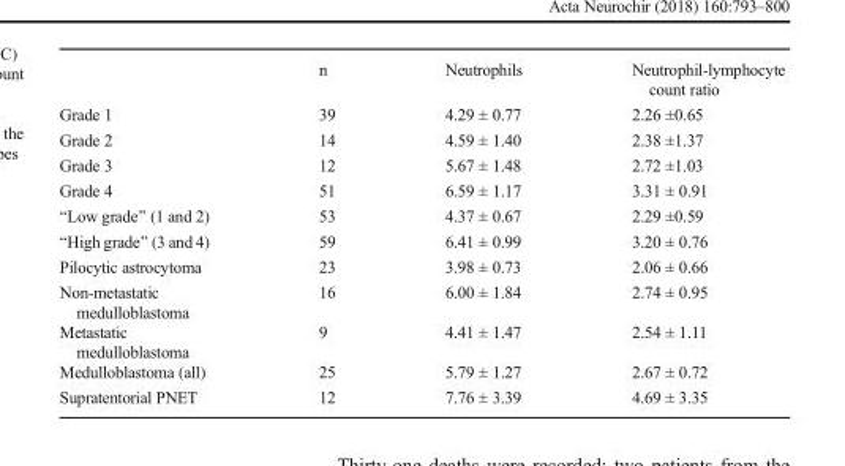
<table><thead><tr><td></td><td>n</td><td>Neutrophils</td><td>Neutrophil-lymphocyte count ratio</td></tr></thead><tbody><tr><td>Grade 1</td><td>39</td><td>4.29 ± 0.77</td><td>2.26 ±0.65</td></tr><tr><td>Grade 2</td><td>14</td><td>4.59 ± 1.40</td><td>2.38 ±1.37</td></tr><tr><td>Grade 3</td><td>12</td><td>5.67 ± 1.48</td><td>2.72 ±1.03</td></tr><tr><td>Grade 4</td><td>51</td><td>6.59 ± 1.17</td><td>3.31 ± 0.91</td></tr><tr><td>“Low grade” (1 and 2)</td><td>53</td><td>4.37 ± 0.67</td><td>2.29 ±0.59</td></tr><tr><td>“High grade” (3 and 4)</td><td>59</td><td>6.41 ± 0.99</td><td>3.20 ± 0.76</td></tr><tr><td>Pilocytic astrocytoma</td><td>23</td><td>3.98 ± 0.73</td><td>2.06 ± 0.66</td></tr><tr><td>Non-metastatic medulloblastoma</td><td>16</td><td>6.00 ± 1.84</td><td>2.74 ± 0.95</td></tr><tr><td>Metastatic medulloblastoma</td><td>9</td><td>4.41 ± 1.47</td><td>2.54 ± 1.11</td></tr><tr><td>Medulloblastoma (all)</td><td>25</td><td>5.79 ± 1.27</td><td>2.67 ± 0.72</td></tr><tr><td>Supratentorial PNET</td><td>12</td><td>7.76 ± 3.39</td><td>4.69 ± 3.35</td></tr></tbody></table>